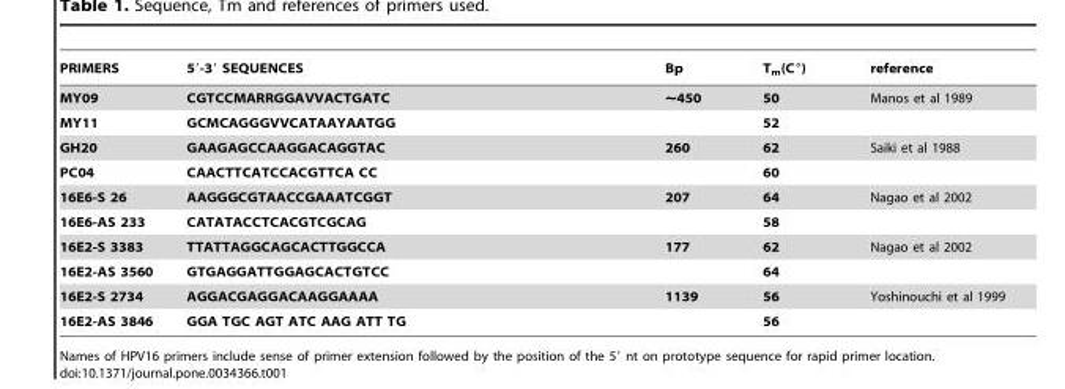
<table><thead><tr><td>PRIMERS</td><td>5′-3′ SEQUENCES</td><td>Bp</td><td>T<sub>m</sub>(C°)</td><td>reference</td></tr></thead><tbody><tr><td>MY09</td><td>CGTCCMARRGGAVVACTGATC</td><td>∼450</td><td>50</td><td>Manos et al 1989</td></tr><tr><td>MY11</td><td>GCMCAGGGVVCATAAYAATGG</td><td></td><td>52</td><td></td></tr><tr><td>GH20</td><td>GAAGAGCCAAGGACAGGTAC</td><td>260</td><td>62</td><td>Saiki et al 1988</td></tr><tr><td>PC04</td><td>CAACTTCATCCACGTTCA CC</td><td></td><td>60</td><td></td></tr><tr><td>16E6-S 26</td><td>AAGGGCGTAACCGAAATCGGT</td><td>207</td><td>64</td><td>Nagao et al 2002</td></tr><tr><td>16E6-AS 233</td><td>CATATACCTCACGTCGCAG</td><td></td><td>58</td><td></td></tr><tr><td>16E2-S 3383</td><td>TTATTAGGCAGCACTTGGCCA</td><td>177</td><td>62</td><td>Nagao et al 2002</td></tr><tr><td>16E2-AS 3560</td><td>GTGAGGATTGGAGCACTGTCC</td><td></td><td>64</td><td></td></tr><tr><td>16E2-S 2734</td><td>AGGACGAGGACAAGGAAAA</td><td>1139</td><td>56</td><td>Yoshinouchi et al 1999</td></tr><tr><td>16E2-AS 3846</td><td>GGA TGC AGT ATC AAG ATT TG</td><td></td><td>56</td><td></td></tr></tbody></table>